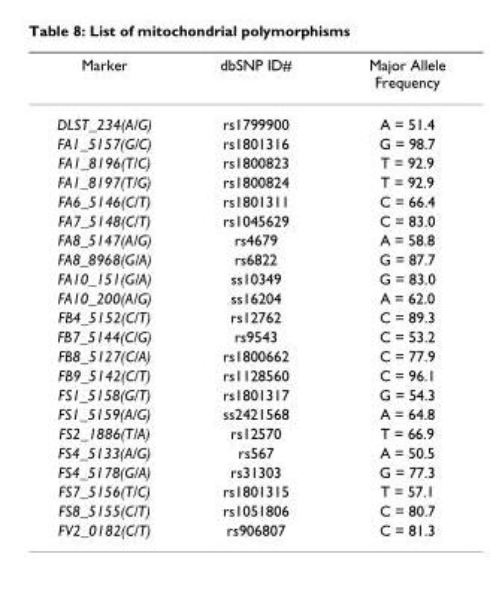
<table><thead><tr><td>Marker</td><td>dbSNP ID#</td><td>Major Allele Frequency</td></tr></thead><tbody><tr><td>DLST_234(A/G)</td><td>rs1799900</td><td>A = 51.4</td></tr><tr><td>FA1_5157(G/C)</td><td>rs1801316</td><td>G = 98.7</td></tr><tr><td>FA1_8196(T/C)</td><td>rs1800823</td><td>T = 92.9</td></tr><tr><td>FA1_8197(T/G)</td><td>rs1800824</td><td>T = 92.9</td></tr><tr><td>FA6_5146(C/T)</td><td>rs1801311</td><td>C = 66.4</td></tr><tr><td>FA7_5148(C/T)</td><td>rs1045629</td><td>C = 83.0</td></tr><tr><td>FA8_5147(A/G)</td><td>rs4679</td><td>A = 58.8</td></tr><tr><td>FA8_8968(G/A)</td><td>rs6822</td><td>G = 87.7</td></tr><tr><td>FA10_151(G/A)</td><td>ss10349</td><td>G = 83.0</td></tr><tr><td>FA10_200(A/G)</td><td>ss16204</td><td>A = 62.0</td></tr><tr><td>FB4_5152(C/T)</td><td>rs12762</td><td>C = 89.3</td></tr><tr><td>FB7_5144(C/G)</td><td>rs9543</td><td>C = 53.2</td></tr><tr><td>FB8_5127(C/A)</td><td>rs1800662</td><td>C = 77.9</td></tr><tr><td>FB9_5142(C/T)</td><td>rs1128560</td><td>C = 96.1</td></tr><tr><td>FS1_5158(G/T)</td><td>rs1801317</td><td>G = 54.3</td></tr><tr><td>FS1_5159(A/G)</td><td>ss2421568</td><td>A = 64.8</td></tr><tr><td>FS2_1886(T/A)</td><td>rs12570</td><td>T = 66.9</td></tr><tr><td>FS4_5133(A/G)</td><td>rs567</td><td>A = 50.5</td></tr><tr><td>FS4_5178(G/A)</td><td>rs31303</td><td>G = 77.3</td></tr><tr><td>FS7_5156(T/C)</td><td>rs1801315</td><td>T = 57.1</td></tr><tr><td>FS8_5155(C/T)</td><td>rs1051806</td><td>C = 80.7</td></tr><tr><td>FV2_0182(C/T)</td><td>rs906807</td><td>C = 81.3</td></tr></tbody></table>